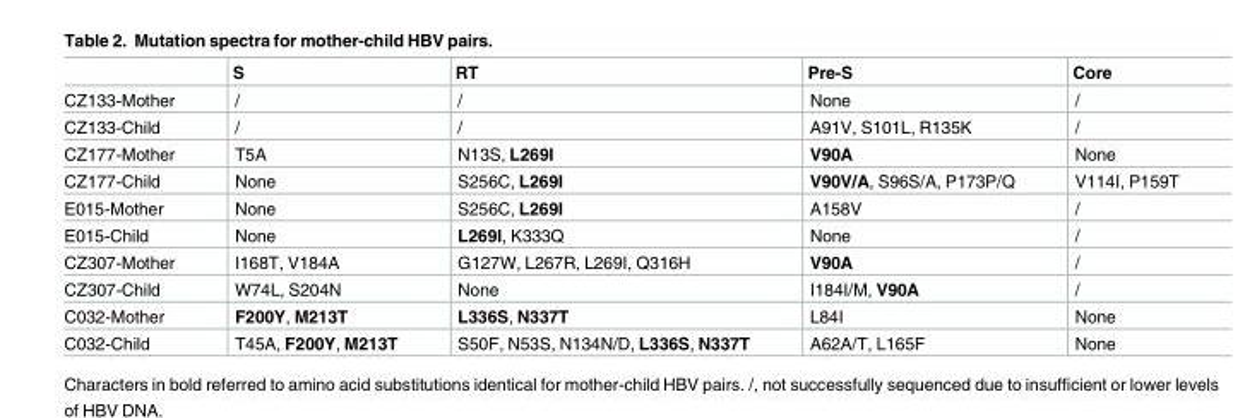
<table><thead><tr><td></td><td>S</td><td>RT</td><td>Pre-S</td><td>Core</td></tr></thead><tbody><tr><td>CZ133-Mother</td><td>/</td><td>/</td><td>None</td><td>/</td></tr><tr><td>CZ133-Child</td><td>/</td><td>/</td><td>A91V, S101L, R135K</td><td>/</td></tr><tr><td>CZ177-Mother</td><td>T5A</td><td>N13S, L269I</td><td>V90A</td><td>None</td></tr><tr><td>CZ177-Child</td><td>None</td><td>S256C, L269I</td><td>V90V/A, S96S/A, P173P/Q</td><td>V114I, P159T</td></tr><tr><td>E015-Mother</td><td>None</td><td>S256C, L269I</td><td>A158V</td><td>/</td></tr><tr><td>E015-Child</td><td>None</td><td>L269I, K333Q</td><td>None</td><td>/</td></tr><tr><td>CZ307-Mother</td><td>I168T, V184A</td><td>G127W, L267R, L269I, Q316H</td><td>V90A</td><td>/</td></tr><tr><td>CZ307-Child</td><td>W74L, S204N</td><td>None</td><td>I184I/M, V90A</td><td>/</td></tr><tr><td>C032-Mother</td><td>F200Y, M213T</td><td>L336S, N337T</td><td>L84I</td><td>None</td></tr><tr><td>C032-Child</td><td>T45A, F200Y, M213T</td><td>S50F, N53S, N134N/D, L336S, N337T</td><td>A62A/T, L165F</td><td>None</td></tr></tbody></table>